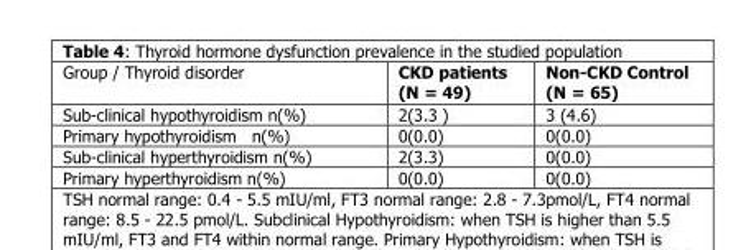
<table><thead><tr><td>Group / Thyroid disorder</td><td>CKD patients (N = 49)</td><td>Non-CKD Control (N = 65)</td></tr></thead><tbody><tr><td>Sub-clinical hypothyroidism n(%)</td><td>2(3.3 )</td><td>3 (4.6)</td></tr><tr><td>Primary hypothyroidism n(%)</td><td>0(0.0)</td><td>0(0.0)</td></tr><tr><td>Sub-clinical hyperthyroidism n(%)</td><td>2(3.3)</td><td>0(0.0)</td></tr><tr><td>Primary hyperthyroidism n(%)</td><td>0(0.0)</td><td>0(0.0)</td></tr></tbody></table>